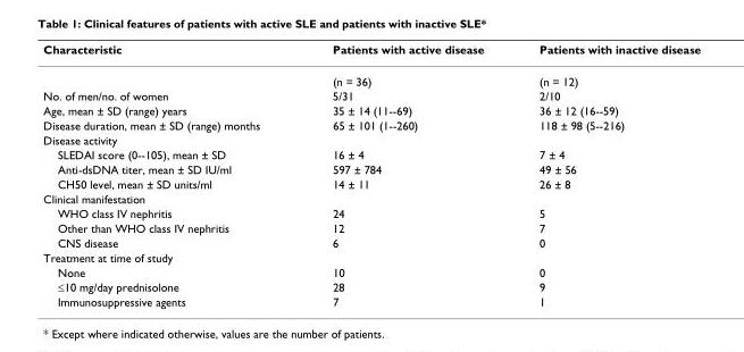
<table><thead><tr><td>Characteristic</td><td>Patients with active disease</td><td>Patients with inactive disease</td></tr></thead><tbody><tr><td></td><td>(n = 36)</td><td>(n = 12)</td></tr><tr><td>No. of men/no. of women</td><td>5/31</td><td>2/10</td></tr><tr><td>Age, mean ± SD (range) years</td><td>35 ± 14 (11--69)</td><td>36 ± 12 (16--59)</td></tr><tr><td>Disease duration, mean ± SD (range) months</td><td>65 ± 101 (1--260)</td><td>118 ± 98 (5--216)</td></tr><tr><td colspan="3">Disease activity</td></tr><tr><td>SLEDAI score (0--105), mean ± SD</td><td>16 ± 4</td><td>7 ± 4</td></tr><tr><td>Anti-dsDNA titer, mean ± SD IU/ml</td><td>597 ± 784</td><td>49 ± 56</td></tr><tr><td>CH50 level, mean ± SD units/ml</td><td>14 ± 11</td><td>26 ± 8</td></tr><tr><td colspan="3">Clinical manifestation</td></tr><tr><td>WHO class IV nephritis</td><td>24</td><td>5</td></tr><tr><td>Other than WHO class IV nephritis</td><td>12</td><td>7</td></tr><tr><td>CNS disease</td><td>6</td><td>0</td></tr><tr><td colspan="3">Treatment at time of study</td></tr><tr><td>None</td><td>10</td><td>0</td></tr><tr><td>≤10 mg/day prednisolone</td><td>28</td><td>9</td></tr><tr><td>Immunosuppressive agents</td><td>7</td><td>1</td></tr></tbody></table>